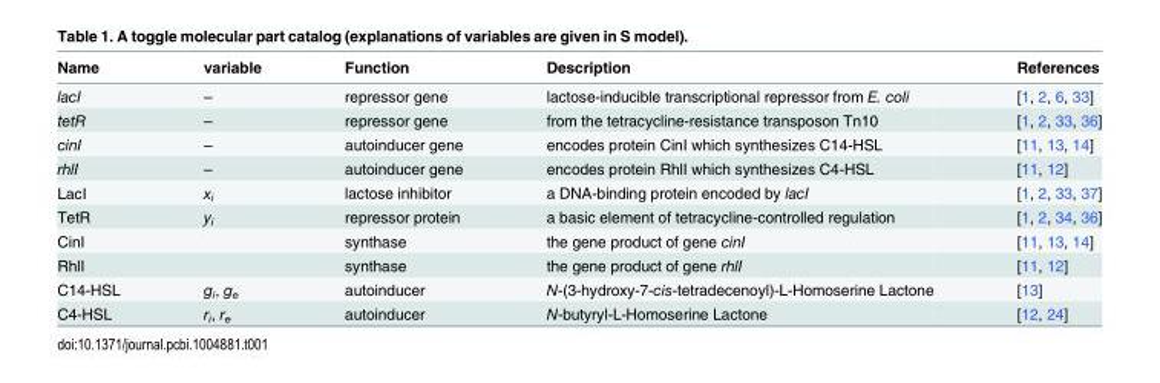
<table><thead><tr><td>Name</td><td>variable</td><td>Function</td><td>Description</td><td>References</td></tr></thead><tbody><tr><td>lacI</td><td>–</td><td>repressor gene</td><td>lactose-inducible transcriptional repressor from E. coli</td><td>[1, 2, 6, 33]</td></tr><tr><td>tetR</td><td>–</td><td>repressor gene</td><td>from the tetracycline-resistance transposon Tn10</td><td>[1, 2, 33, 36]</td></tr><tr><td>cinI</td><td>–</td><td>autoinducer gene</td><td>encodes protein CinI which synthesizes C14-HSL</td><td>[11, 13, 14]</td></tr><tr><td>rhlI</td><td>–</td><td>autoinducer gene</td><td>encodes protein RhlI which synthesizes C4-HSL</td><td>[11, 12]</td></tr><tr><td>LacI</td><td>x<sub>i</sub></td><td>lactose inhibitor</td><td>a DNA-binding protein encoded by lacI</td><td>[1, 2, 33, 37]</td></tr><tr><td>TetR</td><td>y<sub>i</sub></td><td>repressor protein</td><td>a basic element of tetracycline-controlled regulation</td><td>[1, 2, 34, 36]</td></tr><tr><td>CinI</td><td></td><td>synthase</td><td>the gene product of gene cinI</td><td>[11, 13, 14]</td></tr><tr><td>RhlI</td><td></td><td>synthase</td><td>the gene product of gene rhlI</td><td>[11, 12]</td></tr><tr><td>C14-HSL</td><td>g<sub>i</sub>, g<sub>e</sub></td><td>autoinducer</td><td>N-(3-hydroxy-7-cis-tetradecenoyl)-L-Homoserine Lactone</td><td>[13]</td></tr><tr><td>C4-HSL</td><td>r<sub>i</sub>, r<sub>e</sub></td><td>autoinducer</td><td>N-butyryl-L-Homoserine Lactone</td><td>[12, 24]</td></tr></tbody></table>